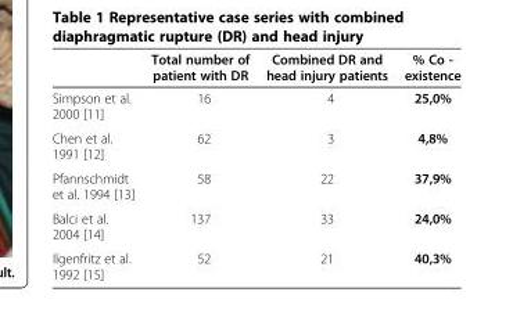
<table><thead><tr><td></td><td>Total number of patient with DR</td><td>Combined DR and head injury patients</td><td>% Co - existence</td></tr></thead><tbody><tr><td>Simpson et al. 2000 [11]</td><td>16</td><td>4</td><td>25,0%</td></tr><tr><td>Chen et al. 1991 [12]</td><td>62</td><td>3</td><td>4,8%</td></tr><tr><td>Pfannschmidt et al. 1994 [13]</td><td>58</td><td>22</td><td>37,9%</td></tr><tr><td>Balci et al. 2004 [14]</td><td>137</td><td>33</td><td>24,0%</td></tr><tr><td>Ilgenfritz et al. 1992 [15]</td><td>52</td><td>21</td><td>40,3%</td></tr></tbody></table>